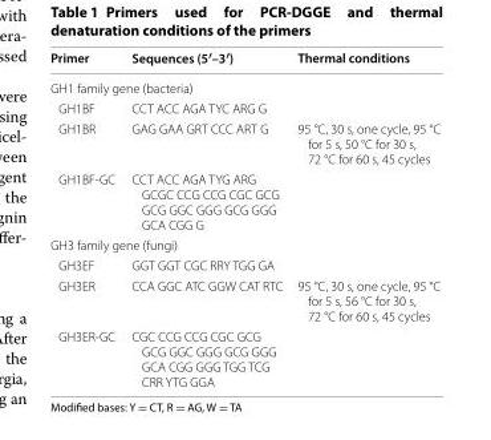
<table><thead><tr><td>Primer</td><td>Sequences (5′–3′)</td><td>Thermal conditions</td></tr></thead><tbody><tr><td colspan="3">GH1 family gene (bacteria)</td></tr><tr><td>GH1BF</td><td>CCT ACC AGA TYC ARG G</td><td></td></tr><tr><td>GH1BR</td><td>GAG GAA GRT CCC ART G</td><td>95 °C, 30 s, one cycle, 95 °C for 5 s, 50 °C for 30 s, 72 °C for 60 s, 45 cycles</td></tr><tr><td>GH1BF-GC</td><td>CCT ACC AGA TYG ARG GCGC CCG CCG CGC GCG GCG GGC GGG GCG GGG GCA CGG G</td><td></td></tr><tr><td colspan="3">GH3 family gene (fungi)</td></tr><tr><td>GH3EF</td><td>GGT GGT CGC RRY TGG GA</td><td></td></tr><tr><td>GH3ER</td><td>CCA GGC ATC GGW CAT RTC</td><td>95 °C, 30 s, one cycle, 95 °C for 5 s, 56 °C for 30 s, 72 °C for 60 s, 45 cycles</td></tr><tr><td>GH3ER-GC</td><td>CGC CCG CCG CGC GCG GCG GGC GGG GCG GGG GCA CGG GGG TGG TCG CRR YTG GGA</td><td></td></tr></tbody></table>